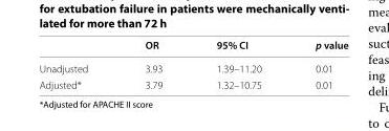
<table><thead><tr><td></td><td>OR</td><td>95% CI</td><td>p value</td></tr></thead><tbody><tr><td>Unadjusted</td><td>3.93</td><td>1.39–11.20</td><td>0.01</td></tr><tr><td>Adjusted*</td><td>3.79</td><td>1.32–10.75</td><td>0.01</td></tr></tbody></table>